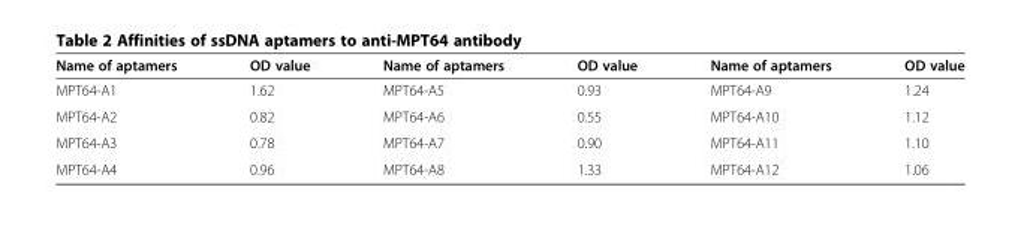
<table><thead><tr><td>Name of aptamers</td><td>OD value</td><td>Name of aptamers</td><td>OD value</td><td>Name of aptamers</td><td>OD value</td></tr></thead><tbody><tr><td>MPT64-A1</td><td>1.62</td><td>MPT64-A5</td><td>0.93</td><td>MPT64-A9</td><td>1.24</td></tr><tr><td>MPT64-A2</td><td>0.82</td><td>MPT64-A6</td><td>0.55</td><td>MPT64-A10</td><td>1.12</td></tr><tr><td>MPT64-A3</td><td>0.78</td><td>MPT64-A7</td><td>0.90</td><td>MPT64-A11</td><td>1.10</td></tr><tr><td>MPT64-A4</td><td>0.96</td><td>MPT64-A8</td><td>1.33</td><td>MPT64-A12</td><td>1.06</td></tr></tbody></table>